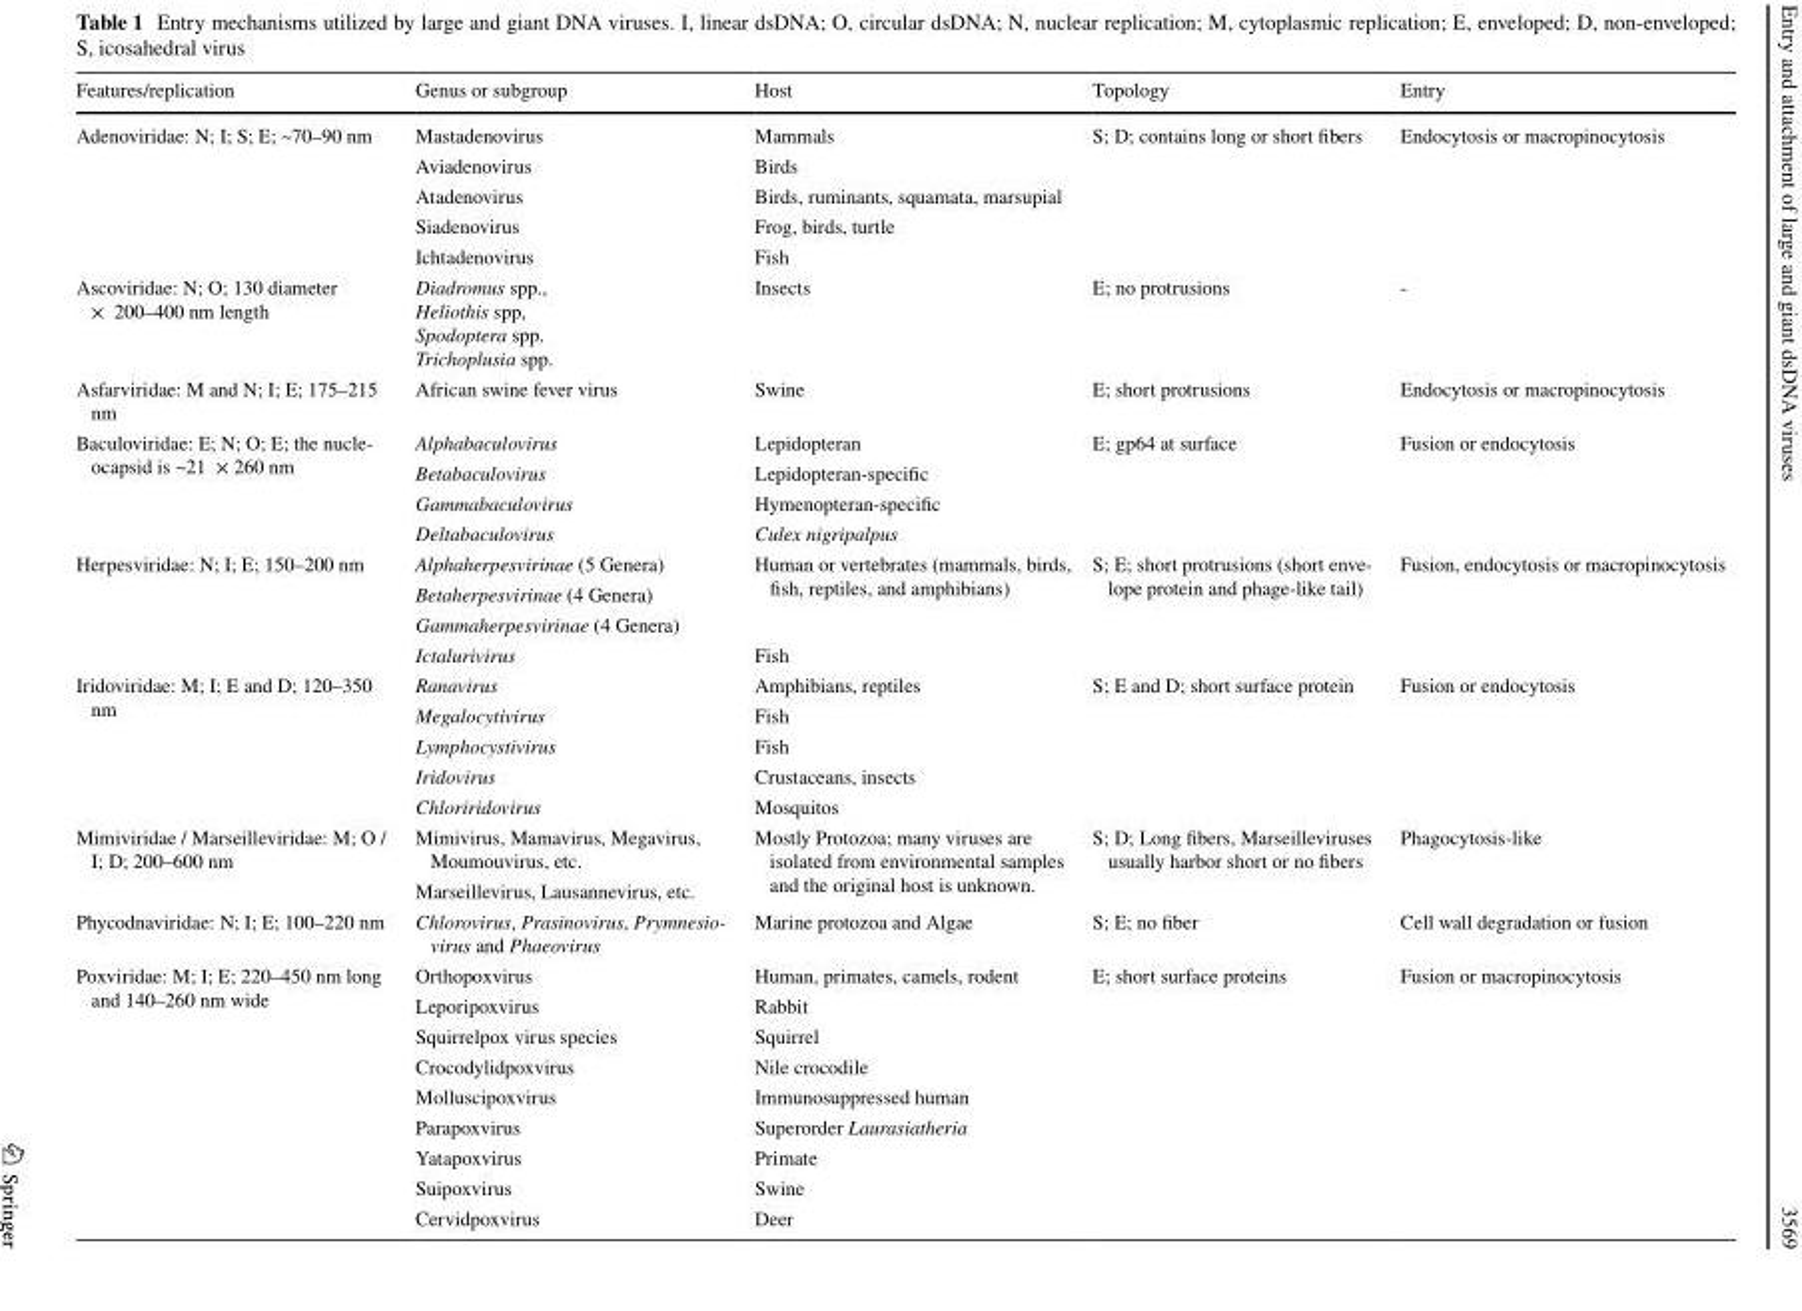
<table><thead><tr><td>Features/replication</td><td>Genus or subgroup</td><td>Host</td><td>Topology</td><td>Entry</td></tr></thead><tbody><tr><td rowspan="5">Adenoviridae: N; I; S; E; ~70–90 nm</td><td>Mastadenovirus</td><td>Mammals</td><td rowspan="5">S; D; contains long or short fibers</td><td rowspan="5">Endocytosis or macropinocytosis</td></tr><tr><td>Aviadenovirus</td><td>Birds</td></tr><tr><td>Atadenovirus</td><td>Birds, ruminants, squamata, marsupial</td></tr><tr><td>Siadenovirus</td><td>Frog, birds, turtle</td></tr><tr><td>Ichtadenovirus</td><td>Fish</td></tr><tr><td>Ascoviridae: N; O; 130 diameter × 200–400 nm length</td><td>Diadromus spp., Heliothis spp, Spodoptera spp. Trichoplusia spp.</td><td>Insects</td><td>E; no protrusions</td><td>-</td></tr><tr><td>Asfarviridae: M and N; I; E; 175–215 nm</td><td>African swine fever virus</td><td>Swine</td><td>E; short protrusions</td><td>Endocytosis or macropinocytosis</td></tr><tr><td rowspan="4">Baculoviridae: E; N; O; E; the nucle- ocapsid is ~21 × 260 nm</td><td>Alphabaculovirus</td><td>Lepidopteran</td><td rowspan="4">E; gp64 at surface</td><td rowspan="4">Fusion or endocytosis</td></tr><tr><td>Betabaculovirus</td><td>Lepidopteran-specific</td></tr><tr><td>Gammabaculovirus</td><td>Hymenopteran-specific</td></tr><tr><td>Deltabaculovirus</td><td>Culex nigripalpus</td></tr><tr><td rowspan="4">Herpesviridae: N; I; E; 150–200 nm</td><td>Alphaherpesvirinae (5 Genera)</td><td rowspan="3">Human or vertebrates (mammals, birds, fish, reptiles, and amphibians)</td><td rowspan="4">S; E; short protrusions (short enve- lope protein and phage-like tail)</td><td rowspan="4">Fusion, endocytosis or macropinocytosis</td></tr><tr><td>Betaherpesvirinae (4 Genera)</td></tr><tr><td>Gammaherpesvirinae (4 Genera)</td></tr><tr><td>Ictalurivirus</td><td>Fish</td></tr><tr><td rowspan="5">Iridoviridae: M; I; E and D; 120–350 nm</td><td>Ranavirus</td><td>Amphibians, reptiles</td><td rowspan="5">S; E and D; short surface protein</td><td rowspan="5">Fusion or endocytosis</td></tr><tr><td>Megalocytivirus</td><td>Fish</td></tr><tr><td>Lymphocystivirus</td><td>Fish</td></tr><tr><td>Iridovirus</td><td>Crustaceans, insects</td></tr><tr><td>Chloriridovirus</td><td>Mosquitos</td></tr><tr><td rowspan="2">Mimiviridae / Marseilleviridae: M; O / I; D; 200–600 nm</td><td>Mimivirus, Mamavirus, Megavirus, Moumouvirus, etc.</td><td rowspan="2">Mostly Protozoa; many viruses are isolated from environmental samples and the original host is unknown.</td><td rowspan="2">S; D; Long fibers, Marseilleviruses usually harbor short or no fibers</td><td rowspan="2">Phagocytosis-like</td></tr><tr><td>Marseillevirus, Lausannevirus, etc.</td></tr><tr><td>Phycodnaviridae: N; I; E; 100–220 nm</td><td>Chlorovirus, Prasinovirus, Prymnesio- virus and Phaeovirus</td><td>Marine protozoa and Algae</td><td>S; E; no fiber</td><td>Cell wall degradation or fusion</td></tr><tr><td rowspan="9">Poxviridae: M; I; E; 220–450 nm long and 140–260 nm wide</td><td>Orthopoxvirus</td><td>Human, primates, camels, rodent</td><td rowspan="9">E; short surface proteins</td><td rowspan="9">Fusion or macropinocytosis</td></tr><tr><td>Leporipoxvirus</td><td>Rabbit</td></tr><tr><td>Squirrelpox virus species</td><td>Squirrel</td></tr><tr><td>Crocodylidpoxvirus</td><td>Nile crocodile</td></tr><tr><td>Molluscipoxvirus</td><td>Immunosuppressed human</td></tr><tr><td>Parapoxvirus</td><td>Superorder Laurasiatheria</td></tr><tr><td>Yatapoxvirus</td><td>Primate</td></tr><tr><td>Suipoxvirus</td><td>Swine</td></tr><tr><td>Cervidpoxvirus</td><td>Deer</td></tr></tbody></table>